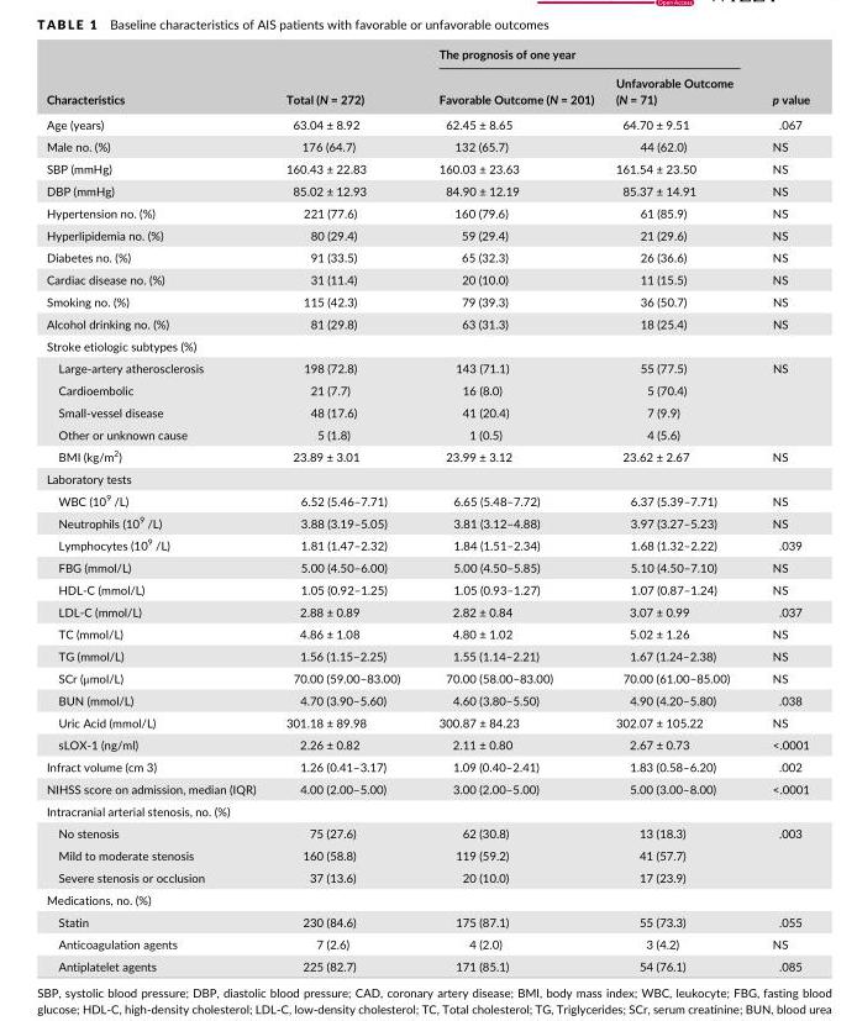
<table><thead><tr><td rowspan="2">Characteristics</td><td rowspan="2">Total (N = 272)</td><td colspan="2">The prognosis of one year</td><td rowspan="2">p value</td></tr><tr><td>Favorable Outcome (N = 201)</td><td>Unfavorable Outcome (N = 71)</td></tr></thead><tbody><tr><td>Age (years)</td><td>63.04 ± 8.92</td><td>62.45 ± 8.65</td><td>64.70 ± 9.51</td><td>.067</td></tr><tr><td>Male no. (%)</td><td>176 (64.7)</td><td>132 (65.7)</td><td>44 (62.0)</td><td>NS</td></tr><tr><td>SBP (mmHg)</td><td>160.43 ± 22.83</td><td>160.03 ± 23.63</td><td>161.54 ± 23.50</td><td>NS</td></tr><tr><td>DBP (mmHg)</td><td>85.02 ± 12.93</td><td>84.90 ± 12.19</td><td>85.37 ± 14.91</td><td>NS</td></tr><tr><td>Hypertension no. (%)</td><td>221 (77.6)</td><td>160 (79.6)</td><td>61 (85.9)</td><td>NS</td></tr><tr><td>Hyperlipidemia no. (%)</td><td>80 (29.4)</td><td>59 (29.4)</td><td>21 (29.6)</td><td>NS</td></tr><tr><td>Diabetes no. (%)</td><td>91 (33.5)</td><td>65 (32.3)</td><td>26 (36.6)</td><td>NS</td></tr><tr><td>Cardiac disease no. (%)</td><td>31 (11.4)</td><td>20 (10.0)</td><td>11 (15.5)</td><td>NS</td></tr><tr><td>Smoking no. (%)</td><td>115 (42.3)</td><td>79 (39.3)</td><td>36 (50.7)</td><td>NS</td></tr><tr><td>Alcohol drinking no. (%)</td><td>81 (29.8)</td><td>63 (31.3)</td><td>18 (25.4)</td><td>NS</td></tr><tr><td colspan="5">Stroke etiologic subtypes (%)</td></tr><tr><td>Large- artery atherosclerosis</td><td>198 (72.8)</td><td>143 (71.1)</td><td>55 (77.5)</td><td rowspan="4">NS</td></tr><tr><td>Cardioembolic</td><td>21 (7.7)</td><td>16 (8.0)</td><td>5 (70.4)</td></tr><tr><td>Small- vessel disease</td><td>48 (17.6)</td><td>41 (20.4)</td><td>7 (9.9)</td></tr><tr><td>Other or unknown cause</td><td>5 (1.8)</td><td>1 (0.5)</td><td>4 (5.6)</td></tr><tr><td>BMI (kg/m<sup>2</sup>)</td><td>23.89 ± 3.01</td><td>23.99 ± 3.12</td><td>23.62 ± 2.67</td><td>NS</td></tr><tr><td colspan="5">Laboratory tests</td></tr><tr><td>WBC (10<sup>9</sup> /L)</td><td>6.52 (5.46–7.71)</td><td>6.65 (5.48–7.72)</td><td>6.37 (5.39–7.71)</td><td>NS</td></tr><tr><td>Neutrophils (10<sup>9</sup> /L)</td><td>3.88 (3.19–5.05)</td><td>3.81 (3.12–4.88)</td><td>3.97 (3.27–5.23)</td><td>NS</td></tr><tr><td>Lymphocytes (10<sup>9</sup> /L)</td><td>1.81 (1.47–2.32)</td><td>1.84 (1.51–2.34)</td><td>1.68 (1.32–2.22)</td><td>.039</td></tr><tr><td>FBG (mmol/L)</td><td>5.00 (4.50–6.00)</td><td>5.00 (4.50–5.85)</td><td>5.10 (4.50–7.10)</td><td>NS</td></tr><tr><td>HDL- C (mmol/L)</td><td>1.05 (0.92–1.25)</td><td>1.05 (0.93–1.27)</td><td>1.07 (0.87–1.24)</td><td>NS</td></tr><tr><td>LDL- C (mmol/L)</td><td>2.88 ± 0.89</td><td>2.82 ± 0.84</td><td>3.07 ± 0.99</td><td>.037</td></tr><tr><td>TC (mmol/L)</td><td>4.86 ± 1.08</td><td>4.80 ± 1.02</td><td>5.02 ± 1.26</td><td>NS</td></tr><tr><td>TG (mmol/L)</td><td>1.56 (1.15–2.25)</td><td>1.55 (1.14–2.21)</td><td>1.67 (1.24–2.38)</td><td>NS</td></tr><tr><td>SCr (μmol/L)</td><td>70.00 (59.00–83.00)</td><td>70.00 (58.00–83.00)</td><td>70.00 (61.00–85.00)</td><td>NS</td></tr><tr><td>BUN (mmol/L)</td><td>4.70 (3.90–5.60)</td><td>4.60 (3.80–5.50)</td><td>4.90 (4.20–5.80)</td><td>.038</td></tr><tr><td>Uric Acid (mmol/L)</td><td>301.18 ± 89.98</td><td>300.87 ± 84.23</td><td>302.07 ± 105.22</td><td>NS</td></tr><tr><td>sLOX- 1 (ng/ml)</td><td>2.26 ± 0.82</td><td>2.11 ± 0.80</td><td>2.67 ± 0.73</td><td>&lt;.0001</td></tr><tr><td>Infract volume (cm 3)</td><td>1.26 (0.41–3.17)</td><td>1.09 (0.40–2.41)</td><td>1.83 (0.58–6.20)</td><td>.002</td></tr><tr><td>NIHSS score on admission, median (IQR)</td><td>4.00 (2.00–5.00)</td><td>3.00 (2.00–5.00)</td><td>5.00 (3.00–8.00)</td><td>&lt;.0001</td></tr><tr><td colspan="5">Intracranial arterial stenosis, no. (%)</td></tr><tr><td>No stenosis</td><td>75 (27.6)</td><td>62 (30.8)</td><td>13 (18.3)</td><td rowspan="3">.003</td></tr><tr><td>Mild to moderate stenosis</td><td>160 (58.8)</td><td>119 (59.2)</td><td>41 (57.7)</td></tr><tr><td>Severe stenosis or occlusion</td><td>37 (13.6)</td><td>20 (10.0)</td><td>17 (23.9)</td></tr><tr><td colspan="5">Medications, no. (%)</td></tr><tr><td>Statin</td><td>230 (84.6)</td><td>175 (87.1)</td><td>55 (73.3)</td><td>.055</td></tr><tr><td>Anticoagulation agents</td><td>7 (2.6)</td><td>4 (2.0)</td><td>3 (4.2)</td><td>NS</td></tr><tr><td>Antiplatelet agents</td><td>225 (82.7)</td><td>171 (85.1)</td><td>54 (76.1)</td><td>.085</td></tr></tbody></table>